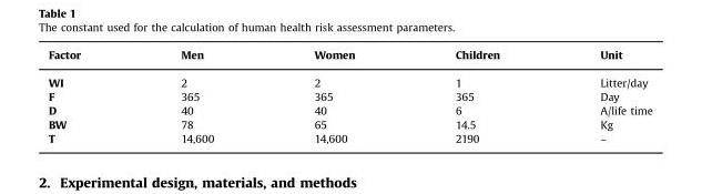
<table><thead><tr><td>Factor</td><td>Men</td><td>Women</td><td>Children</td><td>Unit</td></tr></thead><tbody><tr><td>WI</td><td>2</td><td>2</td><td>1</td><td>Litter/day</td></tr><tr><td>F</td><td>365</td><td>365</td><td>365</td><td>Day</td></tr><tr><td>D</td><td>40</td><td>40</td><td>6</td><td>A/life time</td></tr><tr><td>BW</td><td>78</td><td>65</td><td>14.5</td><td>Kg</td></tr><tr><td>T</td><td>14,600</td><td>14,600</td><td>2190</td><td>–</td></tr></tbody></table>